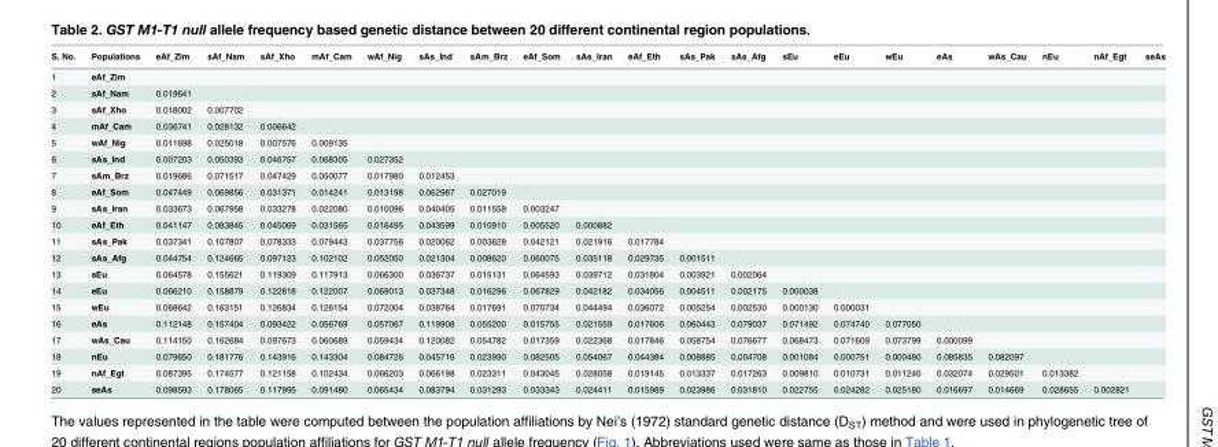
<table><thead><tr><td>S. No.</td><td>Populations</td><td>eAf_Zim</td><td>sAf_Nam</td><td>sAf_Xho</td><td>mAf_Cam</td><td>wAf_Nig</td><td>sAs_Ind</td><td>sAm_Brz</td><td>eAf_Som</td><td>sAs_Iran</td><td>eAf_Eth</td><td>sAs_Pak</td><td>sAs_Afg</td><td>sEu</td><td>eEu</td><td>wEu</td><td>eAs</td><td>wAs_Cau</td><td>nEu</td><td>nAf_Egt</td><td>seAs</td></tr></thead><tbody><tr><td>1</td><td>eAf_Zim</td><td></td><td></td><td></td><td></td><td></td><td></td><td></td><td></td><td></td><td></td><td></td><td></td><td></td><td></td><td></td><td></td><td></td><td></td><td></td><td></td></tr><tr><td>2</td><td>sAf_Nam</td><td>0.019641</td><td></td><td></td><td></td><td></td><td></td><td></td><td></td><td></td><td></td><td></td><td></td><td></td><td></td><td></td><td></td><td></td><td></td><td></td><td></td></tr><tr><td>3</td><td>sAf_Xho</td><td>0.018002</td><td>0.007702</td><td></td><td></td><td></td><td></td><td></td><td></td><td></td><td></td><td></td><td></td><td></td><td></td><td></td><td></td><td></td><td></td><td></td><td></td></tr><tr><td>4</td><td>mAf_Cam</td><td>0.036741</td><td>0.028132</td><td>0.006642</td><td></td><td></td><td></td><td></td><td></td><td></td><td></td><td></td><td></td><td></td><td></td><td></td><td></td><td></td><td></td><td></td><td></td></tr><tr><td>5</td><td>wAf_Nig</td><td>0.011698</td><td>0.025018</td><td>0.007576</td><td>0.009135</td><td></td><td></td><td></td><td></td><td></td><td></td><td></td><td></td><td></td><td></td><td></td><td></td><td></td><td></td><td></td><td></td></tr><tr><td>6</td><td>sAs_Ind</td><td>0.007203</td><td>0.050393</td><td>0.046757</td><td>0.068305</td><td>0.027352</td><td></td><td></td><td></td><td></td><td></td><td></td><td></td><td></td><td></td><td></td><td></td><td></td><td></td><td></td><td></td></tr><tr><td>7</td><td>sAm_Brz</td><td>0.019686</td><td>0.071517</td><td>0.047429</td><td>0.050077</td><td>0.017980</td><td>0.012453</td><td></td><td></td><td></td><td></td><td></td><td></td><td></td><td></td><td></td><td></td><td></td><td></td><td></td><td></td></tr><tr><td>8</td><td>eAf_Som</td><td>0.047449</td><td>0.069856</td><td>0.031371</td><td>0.014241</td><td>0.013198</td><td>0.062987</td><td>0.027019</td><td></td><td></td><td></td><td></td><td></td><td></td><td></td><td></td><td></td><td></td><td></td><td></td><td></td></tr><tr><td>9</td><td>sAs_Iran</td><td>0.033673</td><td>0.067958</td><td>0.033278</td><td>0.022080</td><td>0.010096</td><td>0.040405</td><td>0.011558</td><td>0.003247</td><td></td><td></td><td></td><td></td><td></td><td></td><td></td><td></td><td></td><td></td><td></td><td></td></tr><tr><td>10</td><td>eAf_Eth</td><td>0.041147</td><td>0.083845</td><td>0.045069</td><td>0.031565</td><td>0.016495</td><td>0.043599</td><td>0.010910</td><td>0.005520</td><td>0.000882</td><td></td><td></td><td></td><td></td><td></td><td></td><td></td><td></td><td></td><td></td><td></td></tr><tr><td>11</td><td>sAs_Pak</td><td>0.037341</td><td>0.107807</td><td>0.078333</td><td>0.079443</td><td>0.037756</td><td>0.020062</td><td>0.003628</td><td>0.042121</td><td>0.021916</td><td>0.017784</td><td></td><td></td><td></td><td></td><td></td><td></td><td></td><td></td><td></td><td></td></tr><tr><td>12</td><td>sAs_Afg</td><td>0.044754</td><td>0.124665</td><td>0.097123</td><td>0.102102</td><td>0.052050</td><td>0.021304</td><td>0.008620</td><td>0.060075</td><td>0.035118</td><td>0.029735</td><td>0.001511</td><td></td><td></td><td></td><td></td><td></td><td></td><td></td><td></td><td></td></tr><tr><td>13</td><td>sEu</td><td>0.064578</td><td>0.155621</td><td>0.119309</td><td>0.117913</td><td>0.066300</td><td>0.036737</td><td>0.015131</td><td>0.064593</td><td>0.039712</td><td>0.031804</td><td>0.003921</td><td>0.002064</td><td></td><td></td><td></td><td></td><td></td><td></td><td></td><td></td></tr><tr><td>14</td><td>eEu</td><td>0.066210</td><td>0.158879</td><td>0.122818</td><td>0.122007</td><td>0.069013</td><td>0.037348</td><td>0.016296</td><td>0.067829</td><td>0.042182</td><td>0.034056</td><td>0.004511</td><td>0.002175</td><td>0.000038</td><td></td><td></td><td></td><td></td><td></td><td></td><td></td></tr><tr><td>15</td><td>wEu</td><td>0.068642</td><td>0.163151</td><td>0.126834</td><td>0.126154</td><td>0.072004</td><td>0.038764</td><td>0.017691</td><td>0.070734</td><td>0.044494</td><td>0.036072</td><td>0.005254</td><td>0.002530</td><td>0.000130</td><td>0.000031</td><td></td><td></td><td></td><td></td><td></td><td></td></tr><tr><td>16</td><td>eAs</td><td>0.112148</td><td>0.157404</td><td>0.093422</td><td>0.056769</td><td>0.057067</td><td>0.119908</td><td>0.055200</td><td>0.015755</td><td>0.021559</td><td>0.017606</td><td>0.060443</td><td>0.079037</td><td>0.071492</td><td>0.074740</td><td>0.077050</td><td></td><td></td><td></td><td></td><td></td></tr><tr><td>17</td><td>wAs_Cau</td><td>0.114150</td><td>0.162684</td><td>0.097673</td><td>0.060689</td><td>0.059434</td><td>0.120082</td><td>0.054782</td><td>0.017359</td><td>0.022368</td><td>0.017846</td><td>0.058754</td><td>0.076677</td><td>0.068473</td><td>0.071609</td><td>0.073799</td><td>0.000099</td><td></td><td></td><td></td><td></td></tr><tr><td>18</td><td>nEu</td><td>0.079650</td><td>0.181776</td><td>0.143916</td><td>0.143304</td><td>0.084726</td><td>0.045716</td><td>0.023990</td><td>0.082505</td><td>0.054067</td><td>0.044384</td><td>0.008885</td><td>0.004708</td><td>0.001084</td><td>0.000751</td><td>0.000480</td><td>0.085835</td><td>0.082097</td><td></td><td></td><td></td></tr><tr><td>19</td><td>nAf_Egt</td><td>0.087395</td><td>0.174577</td><td>0.121158</td><td>0.102434</td><td>0.066203</td><td>0.066198</td><td>0.023311</td><td>0.043045</td><td>0.028058</td><td>0.019145</td><td>0.013337</td><td>0.017263</td><td>0.009810</td><td>0.010731</td><td>0.011240</td><td>0.032074</td><td>0.029501</td><td>0.013382</td><td></td><td></td></tr><tr><td>20</td><td>seAs</td><td>0.098593</td><td>0.178065</td><td>0.117995</td><td>0.091480</td><td>0.065434</td><td>0.083794</td><td>0.031293</td><td>0.033343</td><td>0.024411</td><td>0.015989</td><td>0.023986</td><td>0.031810</td><td>0.022755</td><td>0.024282</td><td>0.025180</td><td>0.016697</td><td>0.014669</td><td>0.028655</td><td>0.002821</td><td></td></tr></tbody></table>